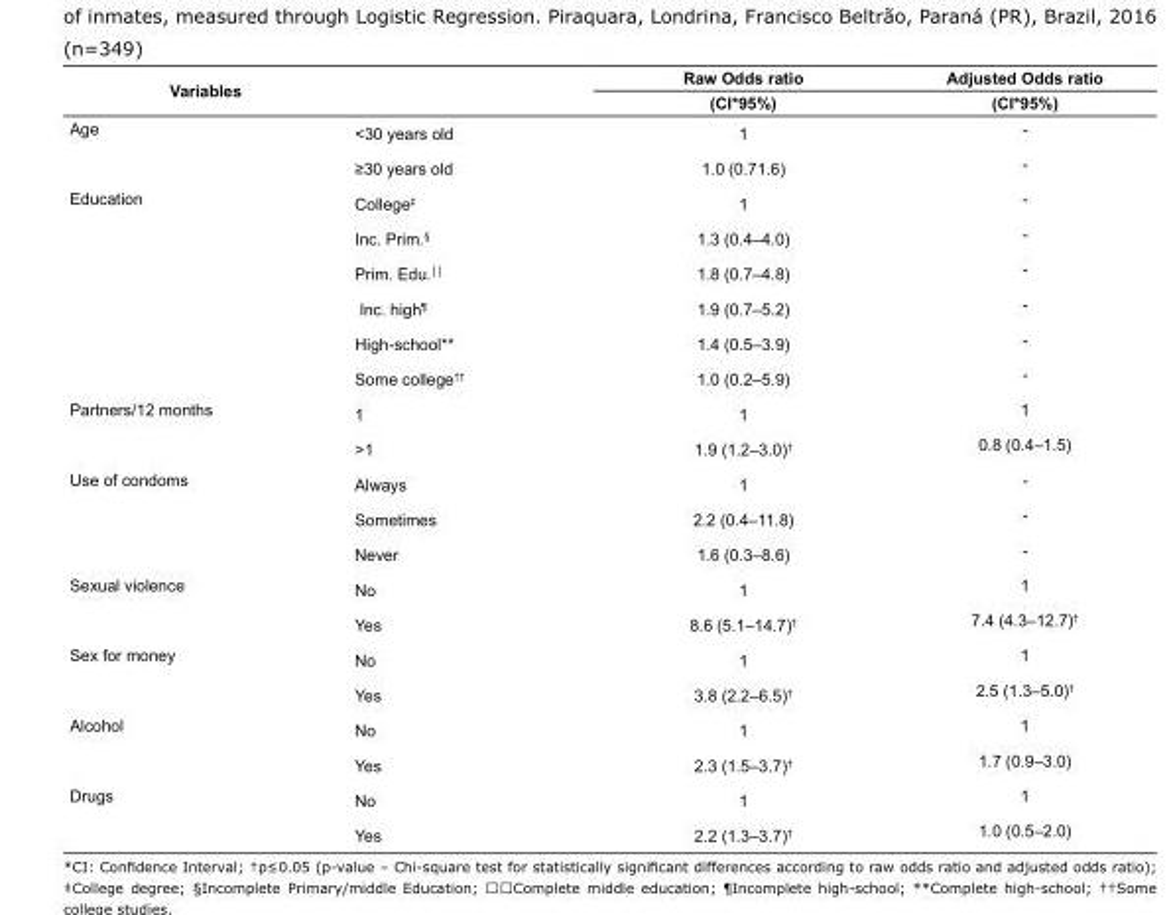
<table><tbody><tr><td rowspan="2">Variables</td><td rowspan="2"></td><td>Raw Odds ratio</td><td>Adjusted Odds ratio</td></tr><tr><td>(CI*95%)</td><td>(CI*95%)</td></tr><tr><td rowspan="2">Age</td><td>&lt;30 years old</td><td>1</td><td>-</td></tr><tr><td>≥30 years old</td><td>1.0 (0.71.6)</td><td>-</td></tr><tr><td rowspan="6">Education</td><td>College<sup>‡</sup></td><td>1</td><td>-</td></tr><tr><td>Inc. Prim.<sup>§</sup></td><td>1.3 (0.4–4.0)</td><td>-</td></tr><tr><td>Prim. Edu.<sup>││</sup></td><td>1.8 (0.7–4.8)</td><td>-</td></tr><tr><td>Inc. high<sup>¶</sup></td><td>1.9 (0.7–5.2)</td><td>-</td></tr><tr><td>High-school**</td><td>1.4 (0.5–3.9)</td><td>-</td></tr><tr><td>Some college<sup>††</sup></td><td>1.0 (0.2–5.9)</td><td>-</td></tr><tr><td rowspan="2">Partners/12 months</td><td>1</td><td>1</td><td>1</td></tr><tr><td>&gt;1</td><td>1.9 (1.2–3.0)<sup>†</sup></td><td>0.8 (0.4–1.5)</td></tr><tr><td rowspan="3">Use of condoms</td><td>Always</td><td>1</td><td>-</td></tr><tr><td>Sometimes</td><td>2.2 (0.4–11.8)</td><td>-</td></tr><tr><td>Never</td><td>1.6 (0.3–8.6)</td><td>-</td></tr><tr><td rowspan="2">Sexual violence</td><td>No</td><td>1</td><td>1</td></tr><tr><td>Yes</td><td>8.6 (5.1–14.7)<sup>†</sup></td><td>7.4 (4.3–12.7)<sup>†</sup></td></tr><tr><td rowspan="2">Sex for money</td><td>No</td><td>1</td><td>1</td></tr><tr><td>Yes</td><td>3.8 (2.2–6.5)<sup>†</sup></td><td>2.5 (1.3–5.0)<sup>†</sup></td></tr><tr><td rowspan="2">Alcohol</td><td>No</td><td>1</td><td>1</td></tr><tr><td>Yes</td><td>2.3 (1.5–3.7)<sup>†</sup></td><td>1.7 (0.9–3.0)</td></tr><tr><td rowspan="2">Drugs</td><td>No</td><td>1</td><td>1</td></tr><tr><td>Yes</td><td>2.2 (1.3–3.7)<sup>†</sup></td><td>1.0 (0.5–2.0)</td></tr></tbody></table>